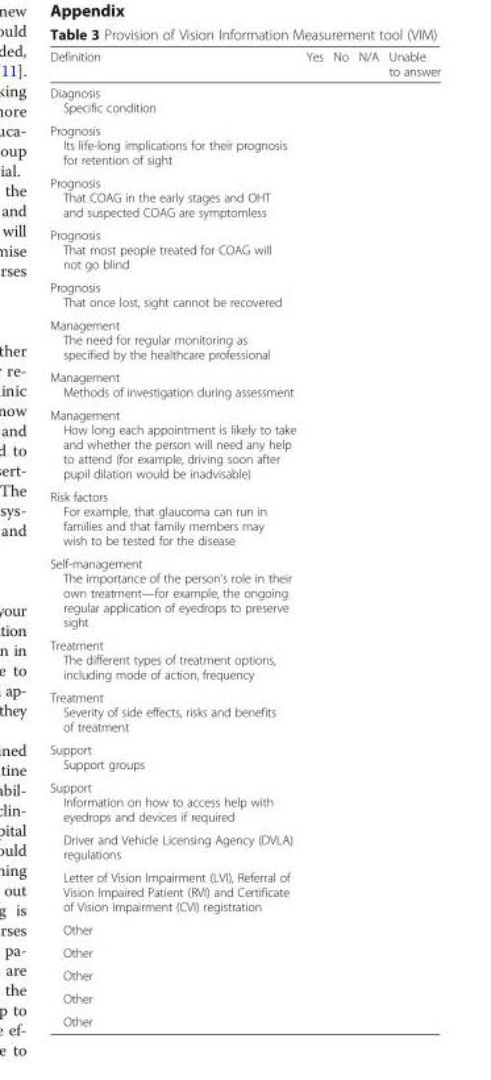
<table><thead><tr><td>Definition</td><td>Yes</td><td>No</td><td>N/A</td><td>Unable to answer</td></tr></thead><tbody><tr><td colspan="5">Diagnosis Specific condition</td></tr><tr><td colspan="5">Prognosis Its life-long implications for their prognosis for retention of sight</td></tr><tr><td colspan="5">Prognosis That COAG in the early stages and OHT and suspected COAG are symptomless</td></tr><tr><td colspan="5">Prognosis That most people treated for COAG will not go blind</td></tr><tr><td colspan="5">Prognosis That once lost, sight cannot be recovered</td></tr><tr><td colspan="5">Management The need for regular monitoring as specified by the healthcare professional</td></tr><tr><td colspan="5">Management Methods of investigation during assessment</td></tr><tr><td colspan="5">Management How long each appointment is likely to take and whether the person will need any help to attend (for example, driving soon after pupil dilation would be inadvisable)</td></tr><tr><td colspan="5">Risk factors For example, that glaucoma can run in families and that family members may wish to be tested for the disease</td></tr><tr><td colspan="5">Self-management The importance of the person’s role in their own treatment—for example, the ongoing regular application of eyedrops to preserve sight</td></tr><tr><td colspan="5">Treatment The different types of treatment options, including mode of action, frequency</td></tr><tr><td colspan="5">Treatment Severity of side effects, risks and benefits of treatment</td></tr><tr><td colspan="5">Support Support groups</td></tr><tr><td colspan="5">Support Information on how to access help with eyedrops and devices if required</td></tr><tr><td colspan="5">Driver and Vehicle Licensing Agency (DVLA) regulations</td></tr><tr><td colspan="5">Letter of Vision Impairment (LVI), Referral of Vision Impaired Patient (RVI) and Certificate of Vision Impairment (CVI) registration</td></tr><tr><td colspan="5">Other</td></tr><tr><td colspan="5">Other</td></tr><tr><td colspan="5">Other</td></tr><tr><td colspan="5">Other</td></tr><tr><td>Other</td><td></td><td></td><td></td><td></td></tr></tbody></table>